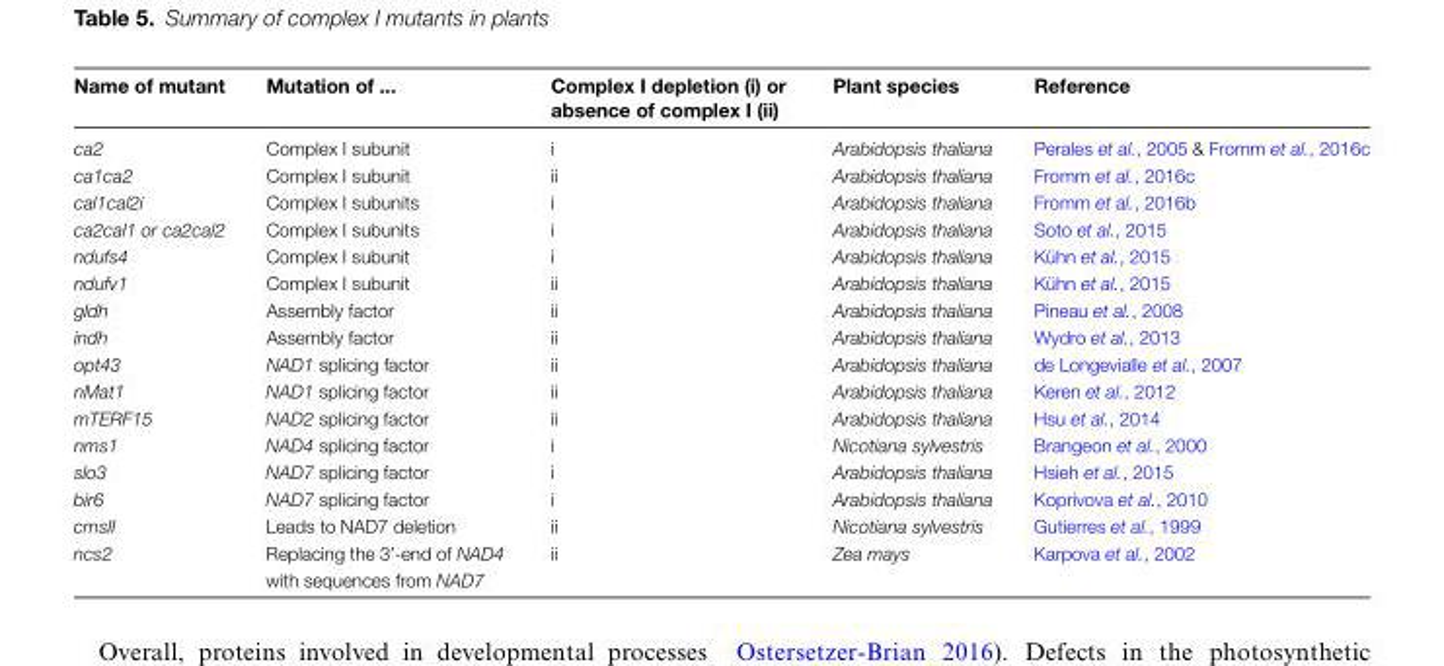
<table><thead><tr><td>Name of mutant</td><td>Mutation of ...</td><td>Complex I depletion (i) or absence of complex I (ii)</td><td>Plant species</td><td>Reference</td></tr></thead><tbody><tr><td>ca2</td><td>Complex I subunit</td><td>i</td><td>Arabidopsis thaliana</td><td>Perales et al., 2005 &amp; Fromm et al., 2016c</td></tr><tr><td>ca1ca2</td><td>Complex I subunit</td><td>ii</td><td>Arabidopsis thaliana</td><td>Fromm et al., 2016c</td></tr><tr><td>cal1cal2i</td><td>Complex I subunits</td><td>i</td><td>Arabidopsis thaliana</td><td>Fromm et al., 2016b</td></tr><tr><td>ca2cal1 or ca2cal2</td><td>Complex I subunits</td><td>i</td><td>Arabidopsis thaliana</td><td>Soto et al., 2015</td></tr><tr><td>ndufs4</td><td>Complex I subunit</td><td>i</td><td>Arabidopsis thaliana</td><td>Kühn et al., 2015</td></tr><tr><td>ndufv1</td><td>Complex I subunit</td><td>ii</td><td>Arabidopsis thaliana</td><td>Kühn et al., 2015</td></tr><tr><td>gldh</td><td>Assembly factor</td><td>ii</td><td>Arabidopsis thaliana</td><td>Pineau et al., 2008</td></tr><tr><td>indh</td><td>Assembly factor</td><td>ii</td><td>Arabidopsis thaliana</td><td>Wydro et al., 2013</td></tr><tr><td>opt43</td><td>NAD1 splicing factor</td><td>ii</td><td>Arabidopsis thaliana</td><td>de Longevialle et al., 2007</td></tr><tr><td>nMat1</td><td>NAD1 splicing factor</td><td>ii</td><td>Arabidopsis thaliana</td><td>Keren et al., 2012</td></tr><tr><td>mTERF15</td><td>NAD2 splicing factor</td><td>ii</td><td>Arabidopsis thaliana</td><td>Hsu et al., 2014</td></tr><tr><td>nms1</td><td>NAD4 splicing factor</td><td>i</td><td>Nicotiana sylvestris</td><td>Brangeon et al., 2000</td></tr><tr><td>slo3</td><td>NAD7 splicing factor</td><td>i</td><td>Arabidopsis thaliana</td><td>Hsieh et al., 2015</td></tr><tr><td>bir6</td><td>NAD7 splicing factor</td><td>i</td><td>Arabidopsis thaliana</td><td>Koprivova et al., 2010</td></tr><tr><td>cmsII</td><td>Leads to NAD7 deletion</td><td>ii</td><td>Nicotiana sylvestris</td><td>Gutierres et al., 1999</td></tr><tr><td>ncs2</td><td>Replacing the 3′-end of NAD4 with sequences from NAD7</td><td>ii</td><td>Zea mays</td><td>Karpova et al., 2002</td></tr></tbody></table>